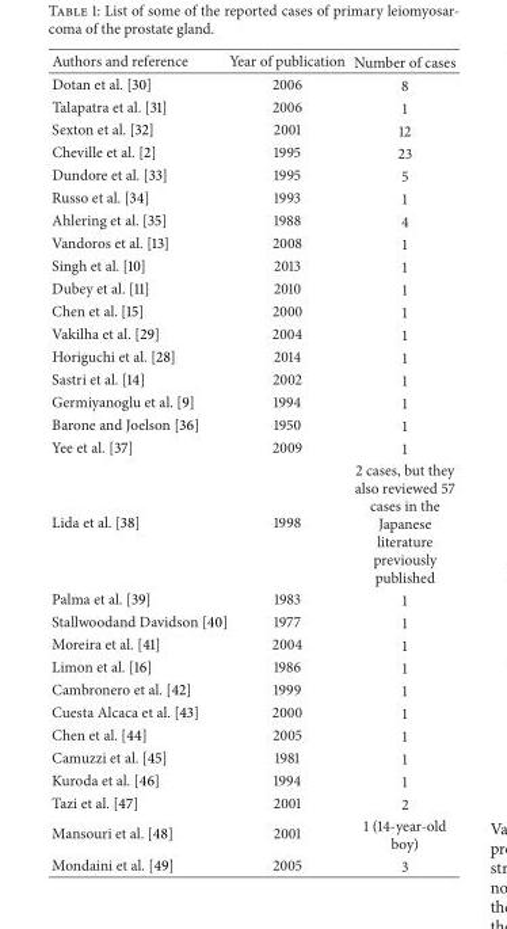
<table><thead><tr><td>Authors and reference</td><td>Year of publication</td><td>Number of cases</td></tr></thead><tbody><tr><td>Dotan et al. [30]</td><td>2006</td><td>8</td></tr><tr><td>Talapatra et al. [31]</td><td>2006</td><td>1</td></tr><tr><td>Sexton et al. [32]</td><td>2001</td><td>12</td></tr><tr><td>Cheville et al. [2]</td><td>1995</td><td>23</td></tr><tr><td>Dundore et al. [33]</td><td>1995</td><td>5</td></tr><tr><td>Russo et al. [34]</td><td>1993</td><td>1</td></tr><tr><td>Ahlering et al. [35]</td><td>1988</td><td>4</td></tr><tr><td>Vandoros et al. [13]</td><td>2008</td><td>1</td></tr><tr><td>Singh et al. [10]</td><td>2013</td><td>1</td></tr><tr><td>Dubey et al. [11]</td><td>2010</td><td>1</td></tr><tr><td>Chen et al. [15]</td><td>2000</td><td>1</td></tr><tr><td>Vakilha et al. [29]</td><td>2004</td><td>1</td></tr><tr><td>Horiguchi et al. [28]</td><td>2014</td><td>1</td></tr><tr><td>Sastri et al. [14]</td><td>2002</td><td>1</td></tr><tr><td>Germiyanoglu et al. [9]</td><td>1994</td><td>1</td></tr><tr><td>Barone and Joelson [36]</td><td>1950</td><td>1</td></tr><tr><td>Yee et al. [37]</td><td>2009</td><td>1</td></tr><tr><td>Lida et al. [38]</td><td>1998</td><td>2 cases, but they also reviewed 57 cases in the Japanese literature previously published</td></tr><tr><td>Palma et al. [39]</td><td>1983</td><td>1</td></tr><tr><td>Stallwoodand Davidson [40]</td><td>1977</td><td>1</td></tr><tr><td>Moreira et al. [41]</td><td>2004</td><td>1</td></tr><tr><td>Limon et al. [16]</td><td>1986</td><td>1</td></tr><tr><td>Cambronero et al. [42]</td><td>1999</td><td>1</td></tr><tr><td>Cuesta Alcaca et al. [43]</td><td>2000</td><td>1</td></tr><tr><td>Chen et al. [44]</td><td>2005</td><td>1</td></tr><tr><td>Camuzzi et al. [45]</td><td>1981</td><td>1</td></tr><tr><td>Kuroda et al. [46]</td><td>1994</td><td>1</td></tr><tr><td>Tazi et al. [47]</td><td>2001</td><td>2</td></tr><tr><td>Mansouri et al. [48]</td><td>2001</td><td>1 (14-year-old boy)</td></tr><tr><td>Mondaini et al. [49]</td><td>2005</td><td>3</td></tr></tbody></table>